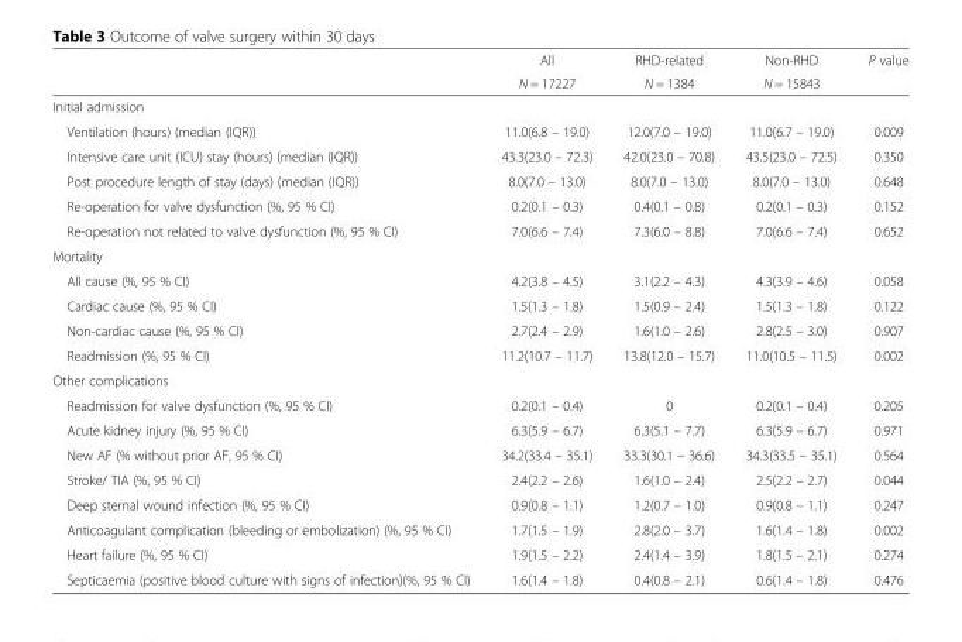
<table><thead><tr><td rowspan="2"></td><td rowspan="2">All N = 17227</td><td rowspan="2">RHD-related N = 1384</td><td rowspan="2">Non-RHD N = 15843</td><td rowspan="2">P value</td></tr><tr></tr></thead><tbody><tr><td colspan="5">Initial admission</td></tr><tr><td>Ventilation (hours) (median (IQR))</td><td>11.0(6.8 – 19.0)</td><td>12.0(7.0 – 19.0)</td><td>11.0(6.7 – 19.0)</td><td>0.009</td></tr><tr><td>Intensive care unit (ICU) stay (hours) (median (IQR))</td><td>43.3(23.0 – 72.3)</td><td>42.0(23.0 – 70.8)</td><td>43.5(23.0 – 72.5)</td><td>0.350</td></tr><tr><td>Post procedure length of stay (days) (median (IQR))</td><td>8.0(7.0 – 13.0)</td><td>8.0(7.0 – 13.0)</td><td>8.0(7.0 – 13.0)</td><td>0.648</td></tr><tr><td>Re-operation for valve dysfunction (%, 95 % CI)</td><td>0.2(0.1 – 0.3)</td><td>0.4(0.1 – 0.8)</td><td>0.2(0.1 – 0.3)</td><td>0.152</td></tr><tr><td>Re-operation not related to valve dysfunction (%, 95 % CI)</td><td>7.0(6.6 – 7.4)</td><td>7.3(6.0 – 8.8)</td><td>7.0(6.6 – 7.4)</td><td>0.652</td></tr><tr><td colspan="5">Mortality</td></tr><tr><td>All cause (%, 95 % CI)</td><td>4.2(3.8 – 4.5)</td><td>3.1(2.2 – 4.3)</td><td>4.3(3.9 – 4.6)</td><td>0.058</td></tr><tr><td>Cardiac cause (%, 95 % CI)</td><td>1.5(1.3 – 1.8)</td><td>1.5(0.9 – 2.4)</td><td>1.5(1.3 – 1.8)</td><td>0.122</td></tr><tr><td>Non-cardiac cause (%, 95 % CI)</td><td>2.7(2.4 – 2.9)</td><td>1.6(1.0 – 2.6)</td><td>2.8(2.5 – 3.0)</td><td>0.907</td></tr><tr><td>Readmission (%, 95 % CI)</td><td>11.2(10.7 – 11.7)</td><td>13.8(12.0 – 15.7)</td><td>11.0(10.5 – 11.5)</td><td>0.002</td></tr><tr><td colspan="5">Other complications</td></tr><tr><td>Readmission for valve dysfunction (%, 95 % CI)</td><td>0.2(0.1 – 0.4)</td><td>0</td><td>0.2(0.1 – 0.4)</td><td>0.205</td></tr><tr><td>Acute kidney injury (%, 95 % CI)</td><td>6.3(5.9 – 6.7)</td><td>6.3(5.1 – 7.7)</td><td>6.3(5.9 – 6.7)</td><td>0.971</td></tr><tr><td>New AF (% without prior AF, 95 % CI)</td><td>34.2(33.4 – 35.1)</td><td>33.3(30.1 – 36.6)</td><td>34.3(33.5 – 35.1)</td><td>0.564</td></tr><tr><td>Stroke/ TIA (%, 95 % CI)</td><td>2.4(2.2 – 2.6)</td><td>1.6(1.0 – 2.4)</td><td>2.5(2.2 – 2.7)</td><td>0.044</td></tr><tr><td>Deep sternal wound infection (%, 95 % CI)</td><td>0.9(0.8 – 1.1)</td><td>1.2(0.7 – 1.0)</td><td>0.9(0.8 – 1.1)</td><td>0.247</td></tr><tr><td>Anticoagulant complication (bleeding or embolization) (%, 95 % CI)</td><td>1.7(1.5 – 1.9)</td><td>2.8(2.0 – 3.7)</td><td>1.6(1.4 – 1.8)</td><td>0.002</td></tr><tr><td>Heart failure (%, 95 % CI)</td><td>1.9(1.5 – 2.2)</td><td>2.4(1.4 – 3.9)</td><td>1.8(1.5 – 2.1)</td><td>0.274</td></tr><tr><td>Septicaemia (positive blood culture with signs of infection)(%, 95 % CI)</td><td>1.6(1.4 – 1.8)</td><td>0.4(0.8 – 2.1)</td><td>0.6(1.4 – 1.8)</td><td>0.476</td></tr></tbody></table>